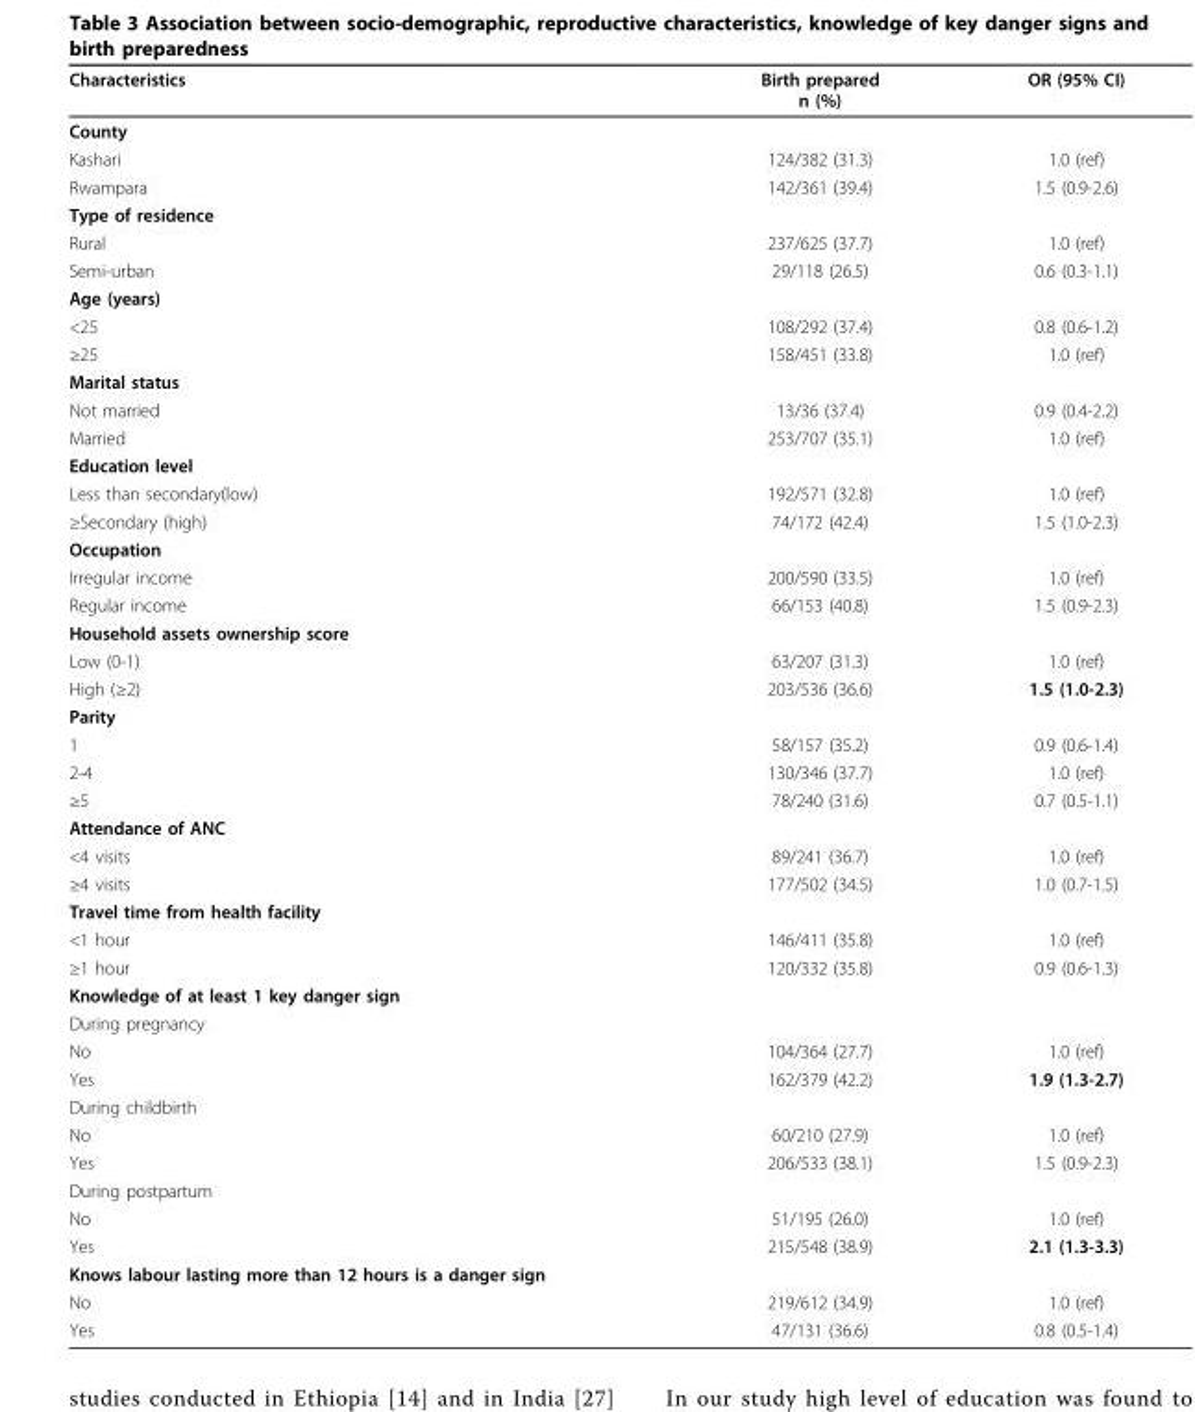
<table><thead><tr><td>Characteristics</td><td>Birth prepared n (%)</td><td>OR (95% CI)</td></tr></thead><tbody><tr><td colspan="3">County</td></tr><tr><td>Kashari</td><td>124/382 (31.3)</td><td>1.0 (ref)</td></tr><tr><td>Rwampara</td><td>142/361 (39.4)</td><td>1.5 (0.9-2.6)</td></tr><tr><td colspan="3">Type of residence</td></tr><tr><td>Rural</td><td>237/625 (37.7)</td><td>1.0 (ref)</td></tr><tr><td>Semi-urban</td><td>29/118 (26.5)</td><td>0.6 (0.3-1.1)</td></tr><tr><td colspan="3">Age (years)</td></tr><tr><td>&lt;25</td><td>108/292 (37.4)</td><td>0.8 (0.6-1.2)</td></tr><tr><td>≥25</td><td>158/451 (33.8)</td><td>1.0 (ref)</td></tr><tr><td colspan="3">Marital status</td></tr><tr><td>Not married</td><td>13/36 (37.4)</td><td>0.9 (0.4-2.2)</td></tr><tr><td>Married</td><td>253/707 (35.1)</td><td>1.0 (ref)</td></tr><tr><td colspan="3">Education level</td></tr><tr><td>Less than secondary(low)</td><td>192/571 (32.8)</td><td>1.0 (ref)</td></tr><tr><td>≥Secondary (high)</td><td>74/172 (42.4)</td><td>1.5 (1.0-2.3)</td></tr><tr><td colspan="3">Occupation</td></tr><tr><td>Irregular income</td><td>200/590 (33.5)</td><td>1.0 (ref)</td></tr><tr><td>Regular income</td><td>66/153 (40.8)</td><td>1.5 (0.9-2.3)</td></tr><tr><td colspan="3">Household assets ownership score</td></tr><tr><td>Low (0-1)</td><td>63/207 (31.3)</td><td>1.0 (ref)</td></tr><tr><td>High (≥2)</td><td>203/536 (36.6)</td><td>1.5 (1.0-2.3)</td></tr><tr><td colspan="3">Parity</td></tr><tr><td>1</td><td>58/157 (35.2)</td><td>0.9 (0.6-1.4)</td></tr><tr><td>2-4</td><td>130/346 (37.7)</td><td>1.0 (ref)</td></tr><tr><td>≥5</td><td>78/240 (31.6)</td><td>0.7 (0.5-1.1)</td></tr><tr><td colspan="3">Attendance of ANC</td></tr><tr><td>&lt;4 visits</td><td>89/241 (36.7)</td><td>1.0 (ref)</td></tr><tr><td>≥4 visits</td><td>177/502 (34.5)</td><td>1.0 (0.7-1.5)</td></tr><tr><td colspan="3">Travel time from health facility</td></tr><tr><td>&lt;1 hour</td><td>146/411 (35.8)</td><td>1.0 (ref)</td></tr><tr><td>≥1 hour</td><td>120/332 (35.8)</td><td>0.9 (0.6-1.3)</td></tr><tr><td colspan="3">Knowledge of at least 1 key danger sign</td></tr><tr><td colspan="3">During pregnancy</td></tr><tr><td>No</td><td>104/364 (27.7)</td><td>1.0 (ref)</td></tr><tr><td>Yes</td><td>162/379 (42.2)</td><td>1.9 (1.3-2.7)</td></tr><tr><td colspan="3">During childbirth</td></tr><tr><td>No</td><td>60/210 (27.9)</td><td>1.0 (ref)</td></tr><tr><td>Yes</td><td>206/533 (38.1)</td><td>1.5 (0.9-2.3)</td></tr><tr><td colspan="3">During postpartum</td></tr><tr><td>No</td><td>51/195 (26.0)</td><td>1.0 (ref)</td></tr><tr><td>Yes</td><td>215/548 (38.9)</td><td>2.1 (1.3-3.3)</td></tr><tr><td colspan="3">Knows labour lasting more than 12 hours is a danger sign</td></tr><tr><td>No</td><td>219/612 (34.9)</td><td>1.0 (ref)</td></tr><tr><td>Yes</td><td>47/131 (36.6)</td><td>0.8 (0.5-1.4)</td></tr></tbody></table>